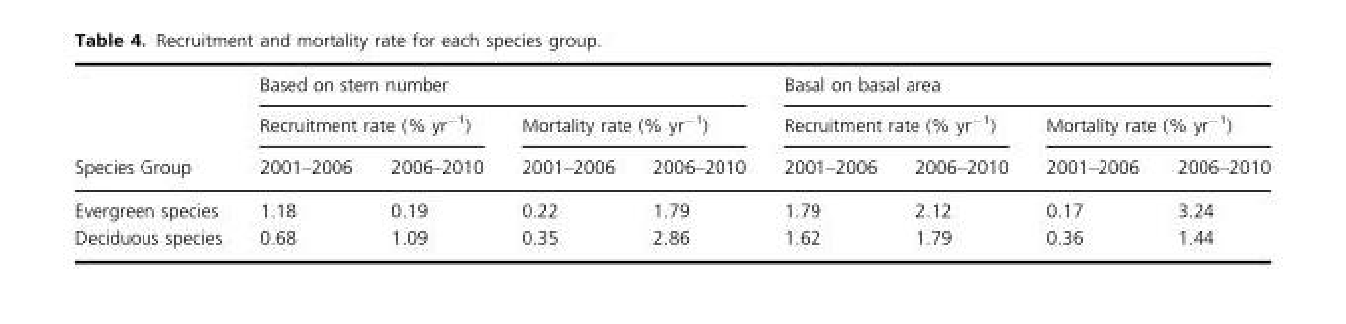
<table><thead><tr><td rowspan="3">Species Group</td><td colspan="4">Based on stem number</td><td colspan="4">Basal on basal area</td></tr><tr><td colspan="2">Recruitment rate (% yr<sup>−1</sup>)</td><td colspan="2">Mortality rate (% yr<sup>−1</sup>)</td><td colspan="2">Recruitment rate (% yr<sup>−1</sup>)</td><td colspan="2">Mortality rate (% yr<sup>−1</sup>)</td></tr><tr><td>2001–2006</td><td>2006–2010</td><td>2001–2006</td><td>2006–2010</td><td>2001–2006</td><td>2006–2010</td><td>2001–2006</td><td>2006–2010</td></tr></thead><tbody><tr><td>Evergreen species</td><td>1.18</td><td>0.19</td><td>0.22</td><td>1.79</td><td>1.79</td><td>2.12</td><td>0.17</td><td>3.24</td></tr><tr><td>Deciduous species</td><td>0.68</td><td>1.09</td><td>0.35</td><td>2.86</td><td>1.62</td><td>1.79</td><td>0.36</td><td>1.44</td></tr></tbody></table>